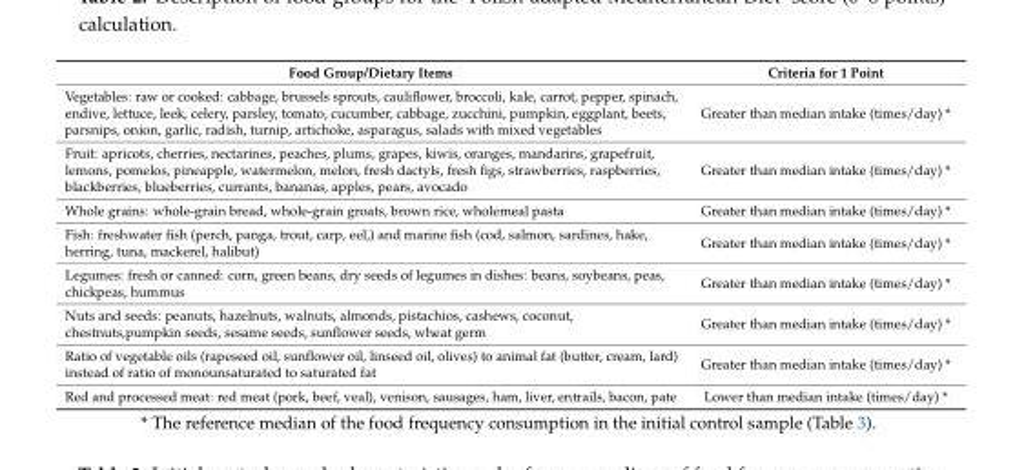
<table><thead><tr><td>Food Group/Dietary Items</td><td>Criteria for 1 Point</td></tr></thead><tbody><tr><td>Vegetables: raw or cooked: cabbage, brussels sprouts, cauliflower, broccoli, kale, carrot, pepper, spinach, endive, lettuce, leek, celery, parsley, tomato, cucumber, cabbage, zucchini, pumpkin, eggplant, beets, parsnips, onion, garlic, radish, turnip, artichoke, asparagus, salads with mixed vegetables</td><td>Greater than median intake (times/day) *</td></tr><tr><td>Fruit: apricots, cherries, nectarines, peaches, plums, grapes, kiwis, oranges, mandarins, grapefruit, lemons, pomelos, pineapple, watermelon, melon, fresh dactyls, fresh figs, strawberries, raspberries, blackberries, blueberries, currants, bananas, apples, pears, avocado</td><td>Greater than median intake (times/day) *</td></tr><tr><td>Whole grains: whole-grain bread, whole-grain groats, brown rice, wholemeal pasta</td><td>Greater than median intake (times/day) *</td></tr><tr><td>Fish: freshwater fish (perch, panga, trout, carp, eel,) and marine fish (cod, salmon, sardines, hake, herring, tuna, mackerel, halibut)</td><td>Greater than median intake (times/day) *</td></tr><tr><td>Legumes: fresh or canned: corn, green beans, dry seeds of legumes in dishes: beans, soybeans, peas, chickpeas, hummus</td><td>Greater than median intake (times/day) *</td></tr><tr><td>Nuts and seeds: peanuts, hazelnuts, walnuts, almonds, pistachios, cashews, coconut, chestnuts,pumpkin seeds, sesame seeds, sunflower seeds, wheat germ</td><td>Greater than median intake (times/day) *</td></tr><tr><td>Ratio of vegetable oils (rapeseed oil, sunflower oil, linseed oil, olives) to animal fat (butter, cream, lard) instead of ratio of monounsaturated to saturated fat</td><td>Greater than median intake (times/day) *</td></tr><tr><td>Red and processed meat: red meat (pork, beef, veal), venison, sausages, ham, liver, entrails, bacon, pate</td><td>Lower than median intake (times/day) *</td></tr></tbody></table>